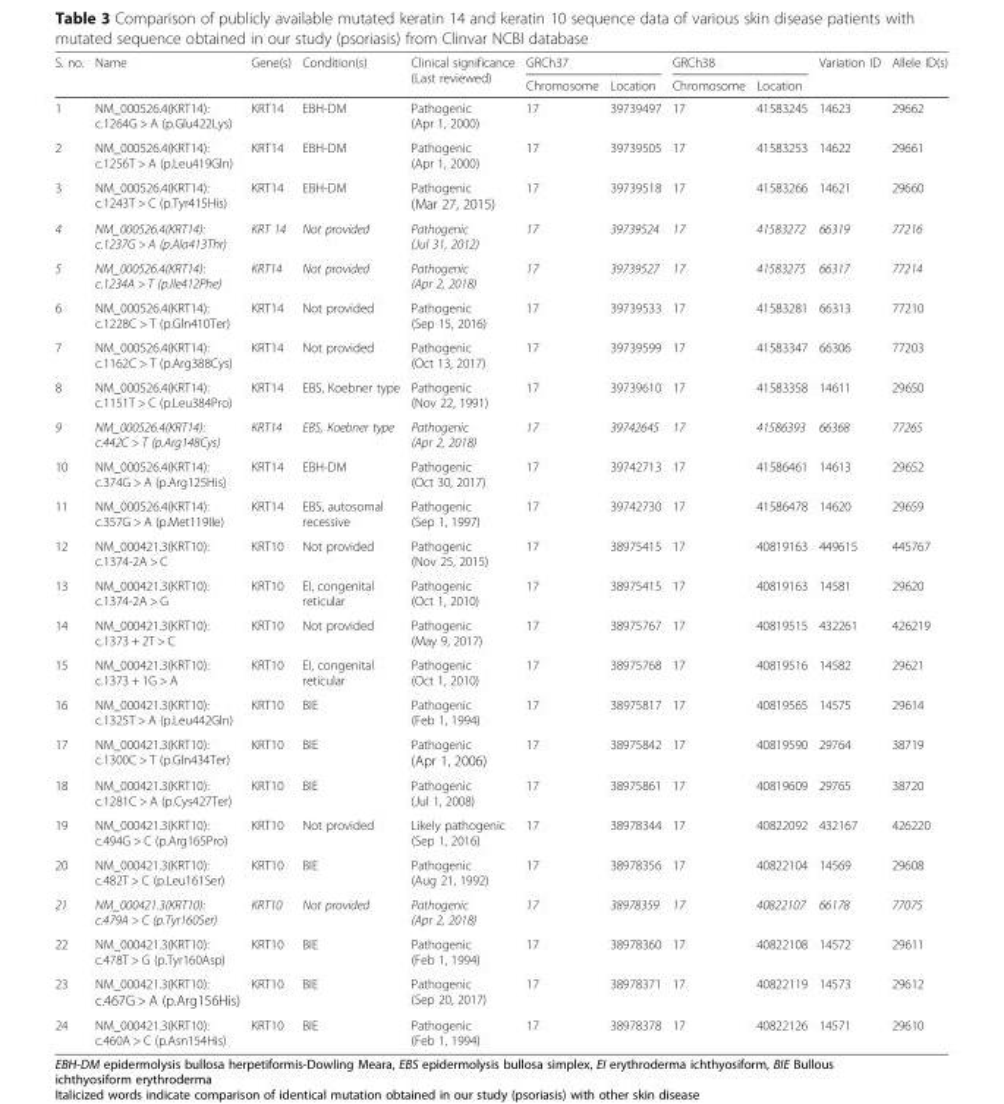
<table><thead><tr><td rowspan="2">S. no.</td><td rowspan="2">Name</td><td rowspan="2">Gene(s)</td><td rowspan="2">Condition(s)</td><td rowspan="2">Clinical significance (Last reviewed)</td><td colspan="2">GRCh37</td><td colspan="2">GRCh38</td><td rowspan="2">Variation ID</td><td rowspan="2">Allele ID(s)</td></tr><tr><td>Chromosome</td><td>Location</td><td>Chromosome</td><td>Location</td></tr></thead><tbody><tr><td>1</td><td>NM_000526.4(KRT14): c.1264G &gt; A (p.Glu422Lys)</td><td>KRT14</td><td>EBH-DM</td><td>Pathogenic (Apr 1, 2000)</td><td>17</td><td>39739497</td><td>17</td><td>41583245</td><td>14623</td><td>29662</td></tr><tr><td>2</td><td>NM_000526.4(KRT14): c.1256T &gt; A (p.Leu419Gln)</td><td>KRT14</td><td>EBH-DM</td><td>Pathogenic (Apr 1, 2000)</td><td>17</td><td>39739505</td><td>17</td><td>41583253</td><td>14622</td><td>29661</td></tr><tr><td>3</td><td>NM_000526.4(KRT14): c.1243T &gt; C (p.Tyr415His)</td><td>KRT14</td><td>EBH-DM</td><td>Pathogenic (Mar 27, 2015)</td><td>17</td><td>39739518</td><td>17</td><td>41583266</td><td>14621</td><td>29660</td></tr><tr><td>4</td><td>NM_000526.4(KRT14): c.1237G &gt; A (p.Ala413Thr)</td><td>KRT 14</td><td>Not provided</td><td>Pathogenic (Jul 31, 2012)</td><td>17</td><td>39739524</td><td>17</td><td>41583272</td><td>66319</td><td>77216</td></tr><tr><td>5</td><td>NM_000526.4(KRT14): c.1234A &gt; T (p.Ile412Phe)</td><td>KRT14</td><td>Not provided</td><td>Pathogenic (Apr 2, 2018)</td><td>17</td><td>39739527</td><td>17</td><td>41583275</td><td>66317</td><td>77214</td></tr><tr><td>6</td><td>NM_000526.4(KRT14): c.1228C &gt; T (p.Gln410Ter)</td><td>KRT14</td><td>Not provided</td><td>Pathogenic (Sep 15, 2016)</td><td>17</td><td>39739533</td><td>17</td><td>41583281</td><td>66313</td><td>77210</td></tr><tr><td>7</td><td>NM_000526.4(KRT14): c.1162C &gt; T (p.Arg388Cys)</td><td>KRT14</td><td>Not provided</td><td>Pathogenic (Oct 13, 2017)</td><td>17</td><td>39739599</td><td>17</td><td>41583347</td><td>66306</td><td>77203</td></tr><tr><td>8</td><td>NM_000526.4(KRT14): c.1151T &gt; C (p.Leu384Pro)</td><td>KRT14</td><td>EBS, Koebner type</td><td>Pathogenic (Nov 22, 1991)</td><td>17</td><td>39739610</td><td>17</td><td>41583358</td><td>14611</td><td>29650</td></tr><tr><td>9</td><td>NM_000526.4(KRT14): c.442C &gt; T (p.Arg148Cys)</td><td>KRT14</td><td>EBS, Koebner type</td><td>Pathogenic (Apr 2, 2018)</td><td>17</td><td>39742645</td><td>17</td><td>41586393</td><td>66368</td><td>77265</td></tr><tr><td>10</td><td>NM_000526.4(KRT14): c.374G &gt; A (p.Arg125His)</td><td>KRT14</td><td>EBH-DM</td><td>Pathogenic (Oct 30, 2017)</td><td>17</td><td>39742713</td><td>17</td><td>41586461</td><td>14613</td><td>29652</td></tr><tr><td>11</td><td>NM_000526.4(KRT14): c.357G &gt; A (p.Met119Ile)</td><td>KRT14</td><td>EBS, autosomal recessive</td><td>Pathogenic (Sep 1, 1997)</td><td>17</td><td>39742730</td><td>17</td><td>41586478</td><td>14620</td><td>29659</td></tr><tr><td>12</td><td>NM_000421.3(KRT10): c.1374-2A &gt; C</td><td>KRT10</td><td>Not provided</td><td>Pathogenic (Nov 25, 2015)</td><td>17</td><td>38975415</td><td>17</td><td>40819163</td><td>449615</td><td>445767</td></tr><tr><td>13</td><td>NM_000421.3(KRT10): c.1374-2A &gt; G</td><td>KRT10</td><td>EI, congenital reticular</td><td>Pathogenic (Oct 1, 2010)</td><td>17</td><td>38975415</td><td>17</td><td>40819163</td><td>14581</td><td>29620</td></tr><tr><td>14</td><td>NM_000421.3(KRT10): c.1373 + 2T &gt; C</td><td>KRT10</td><td>Not provided</td><td>Pathogenic (May 9, 2017)</td><td>17</td><td>38975767</td><td>17</td><td>40819515</td><td>432261</td><td>426219</td></tr><tr><td>15</td><td>NM_000421.3(KRT10): c.1373 + 1G &gt; A</td><td>KRT10</td><td>EI, congenital reticular</td><td>Pathogenic (Oct 1, 2010)</td><td>17</td><td>38975768</td><td>17</td><td>40819516</td><td>14582</td><td>29621</td></tr><tr><td>16</td><td>NM_000421.3(KRT10): c.1325T &gt; A (p.Leu442Gln)</td><td>KRT10</td><td>BIE</td><td>Pathogenic (Feb 1, 1994)</td><td>17</td><td>38975817</td><td>17</td><td>40819565</td><td>14575</td><td>29614</td></tr><tr><td>17</td><td>NM_000421.3(KRT10): c.1300C &gt; T (p.Gln434Ter)</td><td>KRT10</td><td>BIE</td><td>Pathogenic (Apr 1, 2006)</td><td>17</td><td>38975842</td><td>17</td><td>40819590</td><td>29764</td><td>38719</td></tr><tr><td>18</td><td>NM_000421.3(KRT10): c.1281C &gt; A (p.Cys427Ter)</td><td>KRT10</td><td>BIE</td><td>Pathogenic (Jul 1, 2008)</td><td>17</td><td>38975861</td><td>17</td><td>40819609</td><td>29765</td><td>38720</td></tr><tr><td>19</td><td>NM_000421.3(KRT10): c.494G &gt; C (p.Arg165Pro)</td><td>KRT10</td><td>Not provided</td><td>Likely pathogenic (Sep 1, 2016)</td><td>17</td><td>38978344</td><td>17</td><td>40822092</td><td>432167</td><td>426220</td></tr><tr><td>20</td><td>NM_000421.3(KRT10): c.482T &gt; C (p.Leu161Ser)</td><td>KRT10</td><td>BIE</td><td>Pathogenic (Aug 21, 1992)</td><td>17</td><td>38978356</td><td>17</td><td>40822104</td><td>14569</td><td>29608</td></tr><tr><td>21</td><td>NM_000421.3(KRT10): c.479A &gt; C (p.Tyr160Ser)</td><td>KRT10</td><td>Not provided</td><td>Pathogenic (Apr 2, 2018)</td><td>17</td><td>38978359</td><td>17</td><td>40822107</td><td>66178</td><td>77075</td></tr><tr><td>22</td><td>NM_000421.3(KRT10): c.478T &gt; G (p.Tyr160Asp)</td><td>KRT10</td><td>BIE</td><td>Pathogenic (Feb 1, 1994)</td><td>17</td><td>38978360</td><td>17</td><td>40822108</td><td>14572</td><td>29611</td></tr><tr><td>23</td><td>NM_000421.3(KRT10): c.467G &gt; A (p.Arg156His)</td><td>KRT10</td><td>BIE</td><td>Pathogenic (Sep 20, 2017)</td><td>17</td><td>38978371</td><td>17</td><td>40822119</td><td>14573</td><td>29612</td></tr><tr><td>24</td><td>NM_000421.3(KRT10): c.460A &gt; C (p.Asn154His)</td><td>KRT10</td><td>BIE</td><td>Pathogenic (Feb 1, 1994)</td><td>17</td><td>38978378</td><td>17</td><td>40822126</td><td>14571</td><td>29610</td></tr></tbody></table>